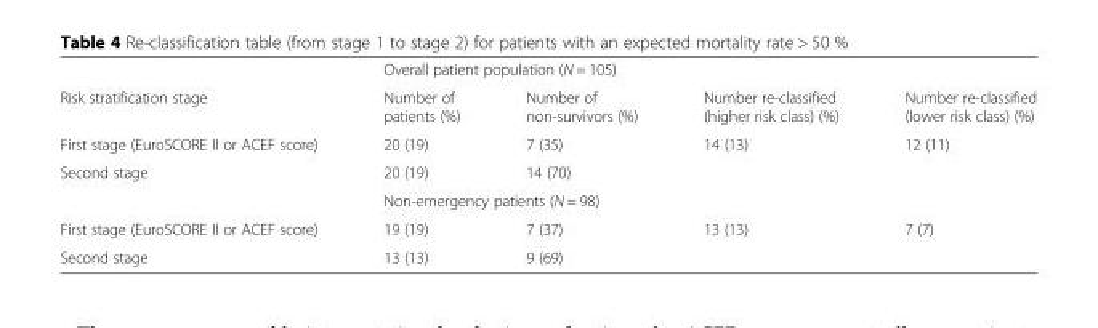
<table><thead><tr><td rowspan="2">Risk stratification stage</td><td colspan="3">Overall patient population (N = 105)</td><td rowspan="2">Number re-classified (lower risk class) (%)</td></tr><tr><td>Number of patients (%)</td><td>Number of non-survivors (%)</td><td>Number re-classified (higher risk class) (%)</td></tr></thead><tbody><tr><td>First stage (EuroSCORE II or ACEF score)</td><td>20 (19)</td><td>7 (35)</td><td>14 (13)</td><td>12 (11)</td></tr><tr><td rowspan="2">Second stage</td><td>20 (19)</td><td>14 (70)</td><td></td><td></td></tr><tr><td colspan="3">Non-emergency patients (N = 98)</td><td></td></tr><tr><td>First stage (EuroSCORE II or ACEF score)</td><td>19 (19)</td><td>7 (37)</td><td>13 (13)</td><td>7 (7)</td></tr><tr><td>Second stage</td><td>13 (13)</td><td>9 (69)</td><td></td><td></td></tr></tbody></table>